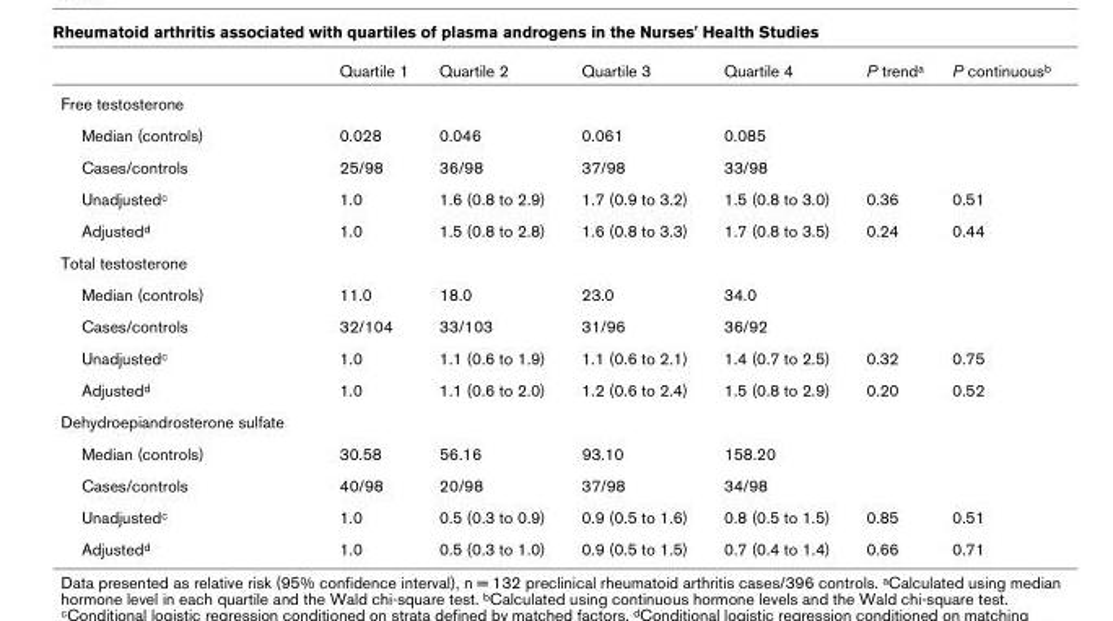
<table><thead><tr><td></td><td>Quartile 1</td><td>Quartile 2</td><td>Quartile 3</td><td>Quartile 4</td><td>P trend<sup>a</sup></td><td>P continuous<sup>b</sup></td></tr></thead><tbody><tr><td colspan="7">Free testosterone</td></tr><tr><td>Median (controls)</td><td>0.028</td><td>0.046</td><td>0.061</td><td>0.085</td><td></td><td></td></tr><tr><td>Cases/controls</td><td>25/98</td><td>36/98</td><td>37/98</td><td>33/98</td><td></td><td></td></tr><tr><td>Unadjusted<sup>c</sup></td><td>1.0</td><td>1.6 (0.8 to 2.9)</td><td>1.7 (0.9 to 3.2)</td><td>1.5 (0.8 to 3.0)</td><td>0.36</td><td>0.51</td></tr><tr><td>Adjusted<sup>d</sup></td><td>1.0</td><td>1.5 (0.8 to 2.8)</td><td>1.6 (0.8 to 3.3)</td><td>1.7 (0.8 to 3.5)</td><td>0.24</td><td>0.44</td></tr><tr><td colspan="7">Total testosterone</td></tr><tr><td>Median (controls)</td><td>11.0</td><td>18.0</td><td>23.0</td><td>34.0</td><td></td><td></td></tr><tr><td>Cases/controls</td><td>32/104</td><td>33/103</td><td>31/96</td><td>36/92</td><td></td><td></td></tr><tr><td>Unadjusted<sup>c</sup></td><td>1.0</td><td>1.1 (0.6 to 1.9)</td><td>1.1 (0.6 to 2.1)</td><td>1.4 (0.7 to 2.5)</td><td>0.32</td><td>0.75</td></tr><tr><td>Adjusted<sup>d</sup></td><td>1.0</td><td>1.1 (0.6 to 2.0)</td><td>1.2 (0.6 to 2.4)</td><td>1.5 (0.8 to 2.9)</td><td>0.20</td><td>0.52</td></tr><tr><td colspan="7">Dehydroepiandrosterone sulfate</td></tr><tr><td>Median (controls)</td><td>30.58</td><td>56.16</td><td>93.10</td><td>158.20</td><td></td><td></td></tr><tr><td>Cases/controls</td><td>40/98</td><td>20/98</td><td>37/98</td><td>34/98</td><td></td><td></td></tr><tr><td>Unadjusted<sup>c</sup></td><td>1.0</td><td>0.5 (0.3 to 0.9)</td><td>0.9 (0.5 to 1.6)</td><td>0.8 (0.5 to 1.5)</td><td>0.85</td><td>0.51</td></tr><tr><td>Adjusted<sup>d</sup></td><td>1.0</td><td>0.5 (0.3 to 1.0)</td><td>0.9 (0.5 to 1.5)</td><td>0.7 (0.4 to 1.4)</td><td>0.66</td><td>0.71</td></tr></tbody></table>